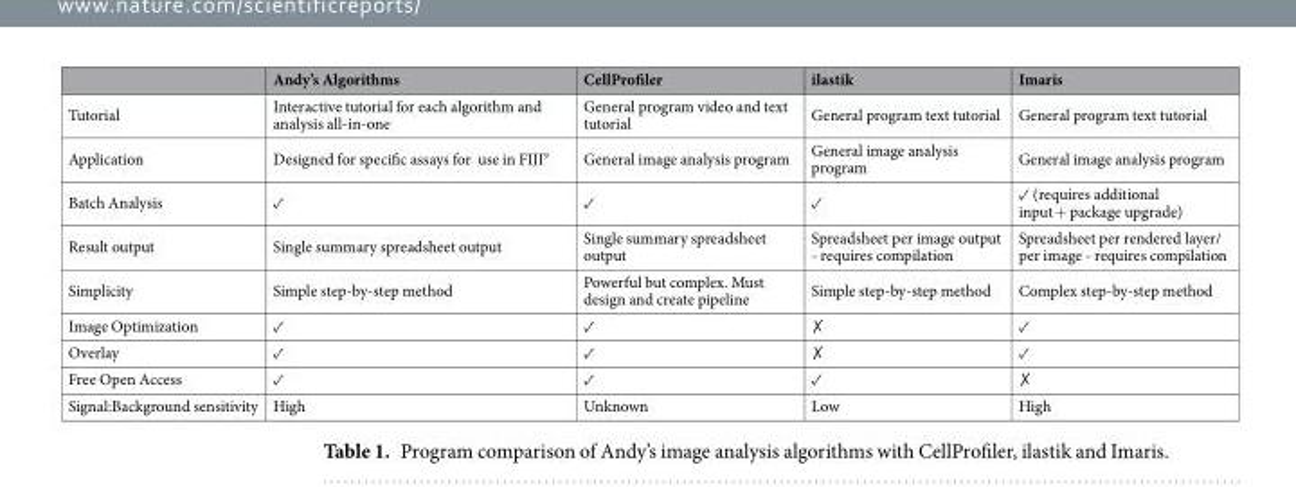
<table><thead><tr><td></td><td>Andy’s Algorithms</td><td>CellProfiler</td><td>ilastik</td><td>Imaris</td></tr></thead><tbody><tr><td>Tutorial</td><td>Interactive tutorial for each algorithm and analysis all-in-one</td><td>General program video and text tutorial</td><td>General program text tutorial</td><td>General program text tutorial</td></tr><tr><td>Application</td><td>Designed for specific assays for use in FIJI<sup>9</sup></td><td>General image analysis program</td><td>General image analysis program</td><td>General image analysis program</td></tr><tr><td>Batch Analysis</td><td>✓</td><td>✓</td><td>✓</td><td>✓ (requires additional input + package upgrade)</td></tr><tr><td>Result output</td><td>Single summary spreadsheet output</td><td>Single summary spreadsheet output</td><td>Spreadsheet per image output - requires compilation</td><td>Spreadsheet per rendered layer/ per image - requires compilation</td></tr><tr><td>Simplicity</td><td>Simple step-by-step method</td><td>Powerful but complex. Must design and create pipeline</td><td>Simple step-by-step method</td><td>Complex step-by-step method</td></tr><tr><td>Image Optimization</td><td>✓</td><td>✓</td><td>✗</td><td>✓</td></tr><tr><td>Overlay</td><td>✓</td><td>✓</td><td>✗</td><td>✓</td></tr><tr><td>Free Open Access</td><td>✓</td><td>✓</td><td>✓</td><td>✗</td></tr><tr><td>Signal:Background sensitivity</td><td>High</td><td>Unknown</td><td>Low</td><td>High</td></tr></tbody></table>